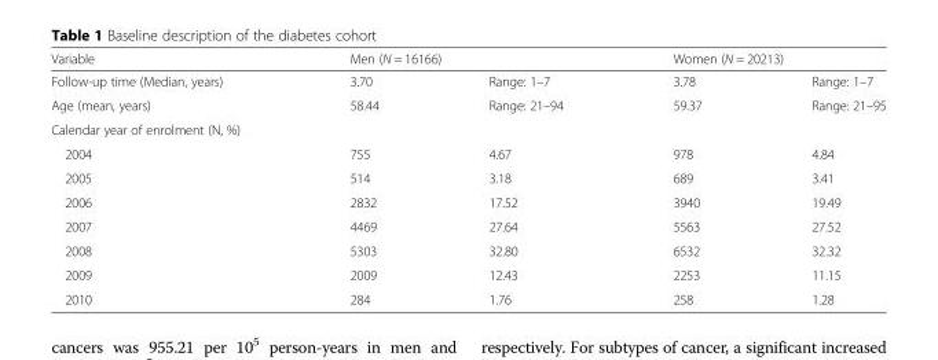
<table><thead><tr><td rowspan="2">Variable Follow-up time (Median, years)</td><td colspan="2">Men (N = 16166)</td><td colspan="2">Women (N = 20213)</td></tr><tr><td>3.70</td><td>Range: 1–7</td><td>3.78</td><td>Range: 1–7</td></tr></thead><tbody><tr><td>Age (mean, years)</td><td>58.44</td><td>Range: 21–94</td><td>59.37</td><td>Range: 21–95</td></tr><tr><td colspan="5">Calendar year of enrolment (N, %)</td></tr><tr><td>2004</td><td>755</td><td>4.67</td><td>978</td><td>4.84</td></tr><tr><td>2005</td><td>514</td><td>3.18</td><td>689</td><td>3.41</td></tr><tr><td>2006</td><td>2832</td><td>17.52</td><td>3940</td><td>19.49</td></tr><tr><td>2007</td><td>4469</td><td>27.64</td><td>5563</td><td>27.52</td></tr><tr><td>2008</td><td>5303</td><td>32.80</td><td>6532</td><td>32.32</td></tr><tr><td>2009</td><td>2009</td><td>12.43</td><td>2253</td><td>11.15</td></tr><tr><td>2010</td><td>284</td><td>1.76</td><td>258</td><td>1.28</td></tr></tbody></table>